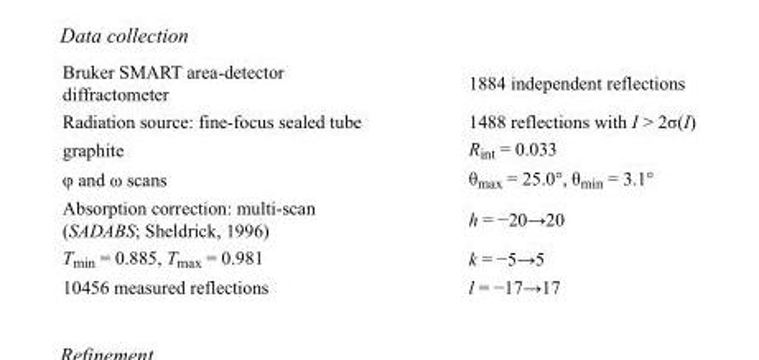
<table><tbody><tr><td>Bruker SMART area-detector diffractometer</td><td>1884 independent reflections</td></tr><tr><td>Radiation source: fine-focus sealed tube</td><td>1488 reflections with I &gt; 2σ(I)</td></tr><tr><td>graphite</td><td>R<sub>int</sub> = 0.033</td></tr><tr><td>φ and ω scans</td><td>θ<sub>max</sub> = 25.0°, θ<sub>min</sub> = 3.1°</td></tr><tr><td>Absorption correction: multi-scan (SADABS; Sheldrick, 1996)</td><td>h = −20→20</td></tr><tr><td>T<sub>min</sub> = 0.885, T<sub>max</sub> = 0.981</td><td>k = −5→5</td></tr><tr><td>10456 measured reflections</td><td>l = −17→17</td></tr></tbody></table>